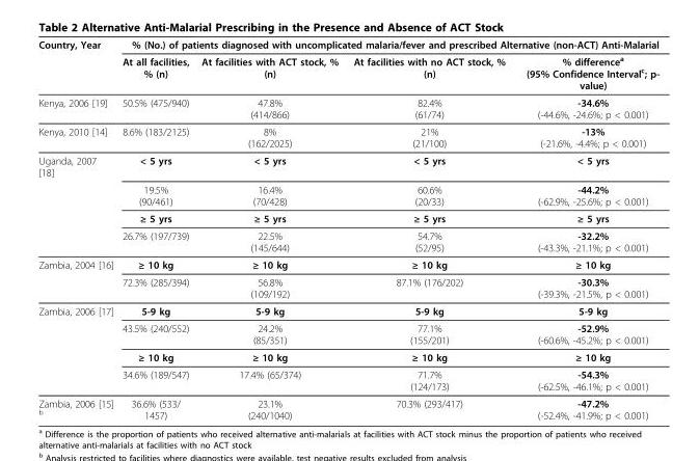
<table><thead><tr><td rowspan="2">Country, Year</td><td colspan="4">% (No.) of patients diagnosed with uncomplicated malaria/fever and prescribed Alternative (non-ACT) Anti-Malarial</td></tr><tr><td>At all facilities, % (n)</td><td>At facilities with ACT stock, % (n)</td><td>At facilities with no ACT stock, % (n)</td><td>% difference<sup>a</sup> (95% Confidence Interval<sup>c</sup>; p- value)</td></tr></thead><tbody><tr><td>Kenya, 2006 [19]</td><td>50.5% (475/940)</td><td>47.8% (414/866)</td><td>82.4% (61/74)</td><td>-34.6% (-44.6%, -24.6%; p &lt; 0.001)</td></tr><tr><td>Kenya, 2010 [14]</td><td>8.6% (183/2125)</td><td>8% (162/2025)</td><td>21% (21/100)</td><td>-13% (-21.6%, -4.4%; p &lt; 0.001)</td></tr><tr><td rowspan="4">Uganda, 2007 [18]</td><td>&lt; 5 yrs</td><td>&lt; 5 yrs</td><td>&lt; 5 yrs</td><td>&lt; 5 yrs</td></tr><tr><td>19.5% (90/461)</td><td>16.4% (70/428)</td><td>60.6% (20/33)</td><td>-44.2% (-62.9%, -25.6%; p &lt; 0.001)</td></tr><tr><td>≥ 5 yrs</td><td>≥ 5 yrs</td><td>≥ 5 yrs</td><td>≥ 5 yrs</td></tr><tr><td>26.7% (197/739)</td><td>22.5% (145/644)</td><td>54.7% (52/95)</td><td>-32.2% (-43.3%, -21.1%; p &lt; 0.001)</td></tr><tr><td rowspan="2">Zambia, 2004 [16]</td><td>≥ 10 kg</td><td>≥ 10 kg</td><td>≥ 10 kg</td><td>≥ 10 kg</td></tr><tr><td>72.3% (285/394)</td><td>56.8% (109/192)</td><td>87.1% (176/202)</td><td>-30.3% (-39.3%, -21.5%, p &lt; 0.001)</td></tr><tr><td rowspan="4">Zambia, 2006 [17]</td><td>5-9 kg</td><td>5-9 kg</td><td>5-9 kg</td><td>5-9 kg</td></tr><tr><td>43.5% (240/552)</td><td>24.2% (85/351)</td><td>77.1% (155/201)</td><td>-52.9% (-60.6%, -45.2%; p &lt; 0.001)</td></tr><tr><td>≥ 10 kg</td><td>≥ 10 kg</td><td>≥ 10 kg</td><td>≥ 10 kg</td></tr><tr><td>34.6% (189/547)</td><td>17.4% (65/374)</td><td>71.7% (124/173)</td><td>-54.3% (-62.5%, -46.1%; p &lt; 0.001)</td></tr><tr><td>Zambia, 2006 [15] <sup>b</sup></td><td>36.6% (533/ 1457)</td><td>23.1% (240/1040)</td><td>70.3% (293/417)</td><td>-47.2% (-52.4%, -41.9%; p &lt; 0.001)</td></tr></tbody></table>